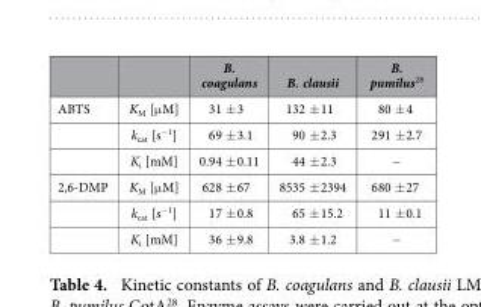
<table><thead><tr><td></td><td></td><td>B. coagulans</td><td>B. clausii</td><td>B. pumilus<sup>28</sup></td></tr></thead><tbody><tr><td rowspan="3">ABTS</td><td>K<sub>M</sub> [μ M]</td><td>31 ± 3</td><td>132 ± 11</td><td>80 ± 4</td></tr><tr><td>k<sub>cat</sub> [s<sup>−1</sup>]</td><td>69 ± 3.1</td><td>90 ± 2.3</td><td>291 ± 2.7</td></tr><tr><td>K<sub>i</sub> [mM]</td><td>0.94 ± 0.11</td><td>44 ± 2.3</td><td>−</td></tr><tr><td rowspan="3">2,6-DMP</td><td>K<sub>M</sub> [μ M]</td><td>628 ± 67</td><td>8535 ± 2394</td><td>680 ± 27</td></tr><tr><td>k<sub>cat</sub> [s<sup>−1</sup>]</td><td>17 ± 0.8</td><td>65 ± 15.2</td><td>11 ± 0.1</td></tr><tr><td>K<sub>i</sub> [mM]</td><td>36 ± 9.8</td><td>3.8 ± 1.2</td><td>−</td></tr></tbody></table>